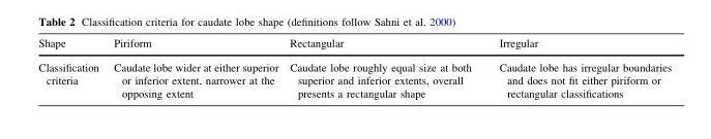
<table><thead><tr><td>Shape</td><td>Piriform</td><td>Rectangular</td><td>Irregular</td></tr></thead><tbody><tr><td>Classification criteria</td><td>Caudate lobe wider at either superior or inferior extent, narrower at the opposing extent</td><td>Caudate lobe roughly equal size at both superior and inferior extents, overall presents a rectangular shape</td><td>Caudate lobe has irregular boundaries and does not fit either piriform or rectangular classifications</td></tr></tbody></table>